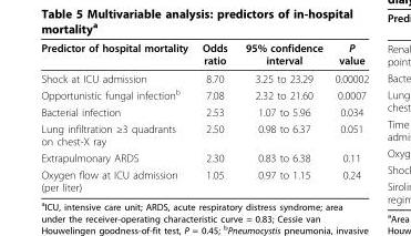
<table><thead><tr><td>Predictor of hospital mortality</td><td>Odds ratio</td><td>95% confidence interval</td><td>P value</td></tr></thead><tbody><tr><td>Shock at ICU admission</td><td>8.70</td><td>3.25 to 23.29</td><td>0.00002</td></tr><tr><td>Opportunistic fungal infection<sup>b</sup></td><td>7.08</td><td>2.32 to 21.60</td><td>0.0007</td></tr><tr><td>Bacterial infection</td><td>2.53</td><td>1.07 to 5.96</td><td>0.034</td></tr><tr><td>Lung infiltration ≥3 quadrants on chest-X ray</td><td>2.50</td><td>0.98 to 6.37</td><td>0.051</td></tr><tr><td>Extrapulmonary ARDS</td><td>2.30</td><td>0.83 to 6.38</td><td>0.11</td></tr><tr><td>Oxygen flow at ICU admission (per liter)</td><td>1.05</td><td>0.97 to 1.15</td><td>0.24</td></tr></tbody></table>